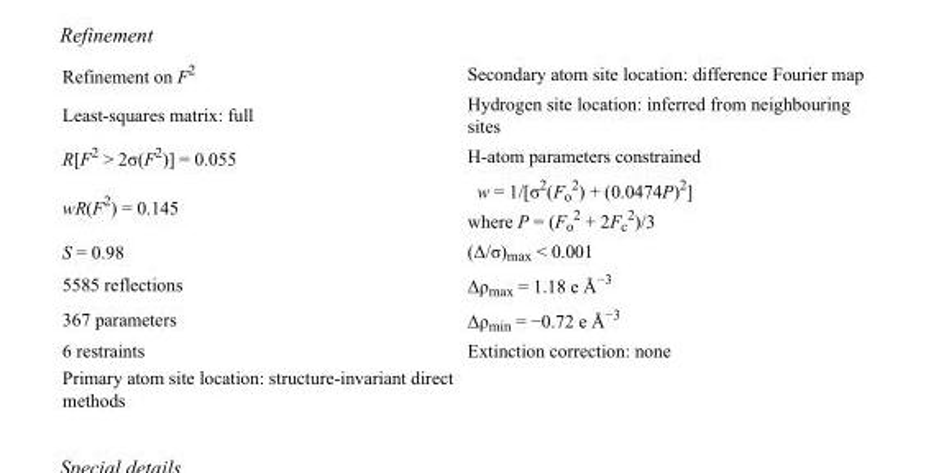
<table><tbody><tr><td>Refinement on F<sup>2</sup></td><td>Secondary atom site location: difference Fourier map</td></tr><tr><td>Least-squares matrix: full</td><td>Hydrogen site location: inferred from neighbouring sites</td></tr><tr><td>R[F<sup>2</sup> &gt; 2σ(F<sup>2</sup>)] = 0.055</td><td>H-atom parameters constrained</td></tr><tr><td>wR(F<sup>2</sup>) = 0.145</td><td>w = 1/[σ<sup>2</sup>(F<sub>o</sub> <sup>2</sup>) + (0.0474P)<sup>2</sup>] where P = (F<sub>o</sub> <sup>2</sup> + 2F<sub>c</sub> <sup>2</sup>)/3</td></tr><tr><td>S = 0.98</td><td>(Δ/σ)<sub>max</sub> &lt; 0.001</td></tr><tr><td>5585 reflections</td><td>Δρ<sub>max</sub> = 1.18 e Å<sup>−3</sup></td></tr><tr><td>367 parameters</td><td>Δρ<sub>min</sub> = −0.72 e Å<sup>−3</sup></td></tr><tr><td>6 restraints</td><td>Extinction correction: none</td></tr><tr><td>Primary atom site location: structure-invariant direct methods</td><td></td></tr></tbody></table>